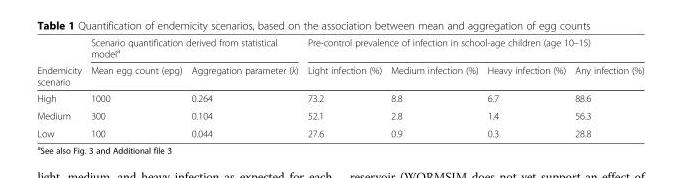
<table><thead><tr><td rowspan="2">Endemicity scenario</td><td colspan="2">Scenario quantification derived from statistical model<sup>a</sup></td><td colspan="4">Pre-control prevalence of infection in school-age children (age 10–15)</td></tr><tr><td>Mean egg count (epg)</td><td>Aggregation parameter (k)</td><td>Light infection (%)</td><td>Medium infection (%)</td><td>Heavy infection (%)</td><td>Any infection (%)</td></tr></thead><tbody><tr><td>High</td><td>1000</td><td>0.264</td><td>73.2</td><td>8.8</td><td>6.7</td><td>88.6</td></tr><tr><td>Medium</td><td>300</td><td>0.104</td><td>52.1</td><td>2.8</td><td>1.4</td><td>56.3</td></tr><tr><td>Low</td><td>100</td><td>0.044</td><td>27.6</td><td>0.9</td><td>0.3</td><td>28.8</td></tr></tbody></table>